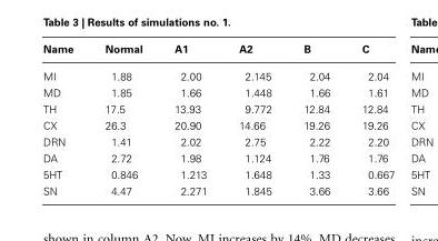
<table><thead><tr><td>Name</td><td>Normal</td><td>A1</td><td>A2</td><td>B</td><td>C</td></tr></thead><tbody><tr><td>MI</td><td>1.88</td><td>2.00</td><td>2.145</td><td>2.04</td><td>2.04</td></tr><tr><td>MD</td><td>1.85</td><td>1.66</td><td>1.448</td><td>1.66</td><td>1.61</td></tr><tr><td>TH</td><td>17.5</td><td>13.93</td><td>9.772</td><td>12.84</td><td>12.84</td></tr><tr><td>CX</td><td>26.3</td><td>20.90</td><td>14.66</td><td>19.26</td><td>19.26</td></tr><tr><td>DRN</td><td>1.41</td><td>2.02</td><td>2.75</td><td>2.22</td><td>2.20</td></tr><tr><td>DA</td><td>2.72</td><td>1.98</td><td>1.124</td><td>1.76</td><td>1.76</td></tr><tr><td>5HT</td><td>0.846</td><td>1.213</td><td>1.648</td><td>1.33</td><td>0.667</td></tr><tr><td>SN</td><td>4.47</td><td>2.271</td><td>1.845</td><td>3.66</td><td>3.66</td></tr></tbody></table>